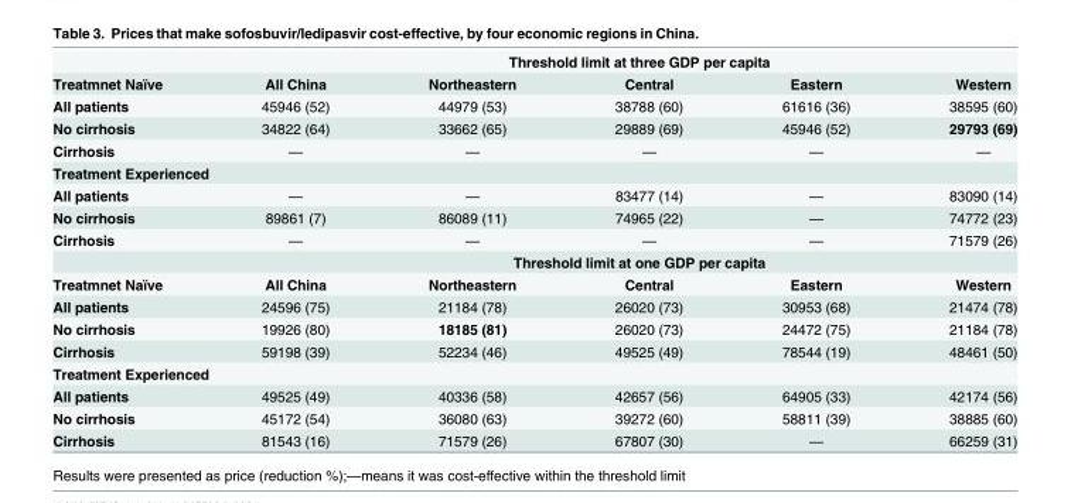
<table><thead><tr><td rowspan="2">Treatmnet Naïve</td><td colspan="5">Threshold limit at three GDP per capita</td></tr><tr><td>All China</td><td>Northeastern</td><td>Central</td><td>Eastern</td><td>Western</td></tr></thead><tbody><tr><td>All patients</td><td>45946 (52)</td><td>44979 (53)</td><td>38788 (60)</td><td>61616 (36)</td><td>38595 (60)</td></tr><tr><td>No cirrhosis</td><td>34822 (64)</td><td>33662 (65)</td><td>29889 (69)</td><td>45946 (52)</td><td>29793 (69)</td></tr><tr><td>Cirrhosis</td><td>—</td><td>—</td><td>—</td><td>—</td><td>—</td></tr><tr><td colspan="6">Treatment Experienced</td></tr><tr><td>All patients</td><td>—</td><td>—</td><td>83477 (14)</td><td>—</td><td>83090 (14)</td></tr><tr><td>No cirrhosis</td><td>89861 (7)</td><td>86089 (11)</td><td>74965 (22)</td><td>—</td><td>74772 (23)</td></tr><tr><td rowspan="2">Cirrhosis</td><td>—</td><td>—</td><td>—</td><td>—</td><td>71579 (26)</td></tr><tr><td colspan="5">Threshold limit at one GDP per capita</td></tr><tr><td>Treatmnet Naïve</td><td>All China</td><td>Northeastern</td><td>Central</td><td>Eastern</td><td>Western</td></tr><tr><td>All patients</td><td>24596 (75)</td><td>21184 (78)</td><td>26020 (73)</td><td>30953 (68)</td><td>21474 (78)</td></tr><tr><td>No cirrhosis</td><td>19926 (80)</td><td>18185 (81)</td><td>26020 (73)</td><td>24472 (75)</td><td>21184 (78)</td></tr><tr><td>Cirrhosis</td><td>59198 (39)</td><td>52234 (46)</td><td>49525 (49)</td><td>78544 (19)</td><td>48461 (50)</td></tr><tr><td colspan="6">Treatment Experienced</td></tr><tr><td>All patients</td><td>49525 (49)</td><td>40336 (58)</td><td>42657 (56)</td><td>64905 (33)</td><td>42174 (56)</td></tr><tr><td>No cirrhosis</td><td>45172 (54)</td><td>36080 (63)</td><td>39272 (60)</td><td>58811 (39)</td><td>38885 (60)</td></tr><tr><td>Cirrhosis</td><td>81543 (16)</td><td>71579 (26)</td><td>67807 (30)</td><td>—</td><td>66259 (31)</td></tr></tbody></table>